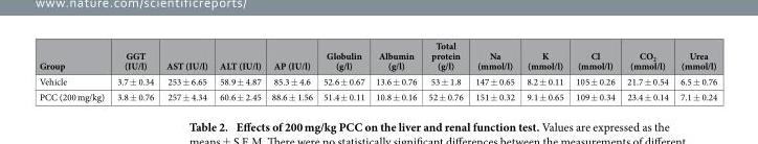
<table><thead><tr><td>Group</td><td>GGT (IU/l)</td><td>AST (IU/l)</td><td>ALT (IU/l)</td><td>AP (IU/l)</td><td>Globulin (g/l)</td><td>Albumin (g/l)</td><td>Total protein (g/l)</td><td>Na (mmol/l)</td><td>K (mmol/l)</td><td>Cl (mmol/l)</td><td>CO2 (mmol/l)</td><td>Urea (mmol/l)</td></tr></thead><tbody><tr><td>Vehicle</td><td>3.7 ± 0.34</td><td>253 ± 6.65</td><td>58.9 ± 4.87</td><td>85.3 ± 4.6</td><td>52.6 ± 0.67</td><td>13.6 ± 0.76</td><td>53 ± 1.8</td><td>147 ± 0.65</td><td>8.2 ± 0.11</td><td>105 ± 0.26</td><td>21.7 ± 0.54</td><td>6.5 ± 0.76</td></tr><tr><td>PCC (200 mg/kg)</td><td>3.8 ± 0.76</td><td>257 ± 4.34</td><td>60.6 ± 2.45</td><td>88.6 ± 1.56</td><td>51.4 ± 0.11</td><td>10.8 ± 0.16</td><td>52 ± 0.76</td><td>151 ± 0.32</td><td>9.1 ± 0.65</td><td>109 ± 0.34</td><td>23.4 ± 0.14</td><td>7.1 ± 0.24</td></tr></tbody></table>